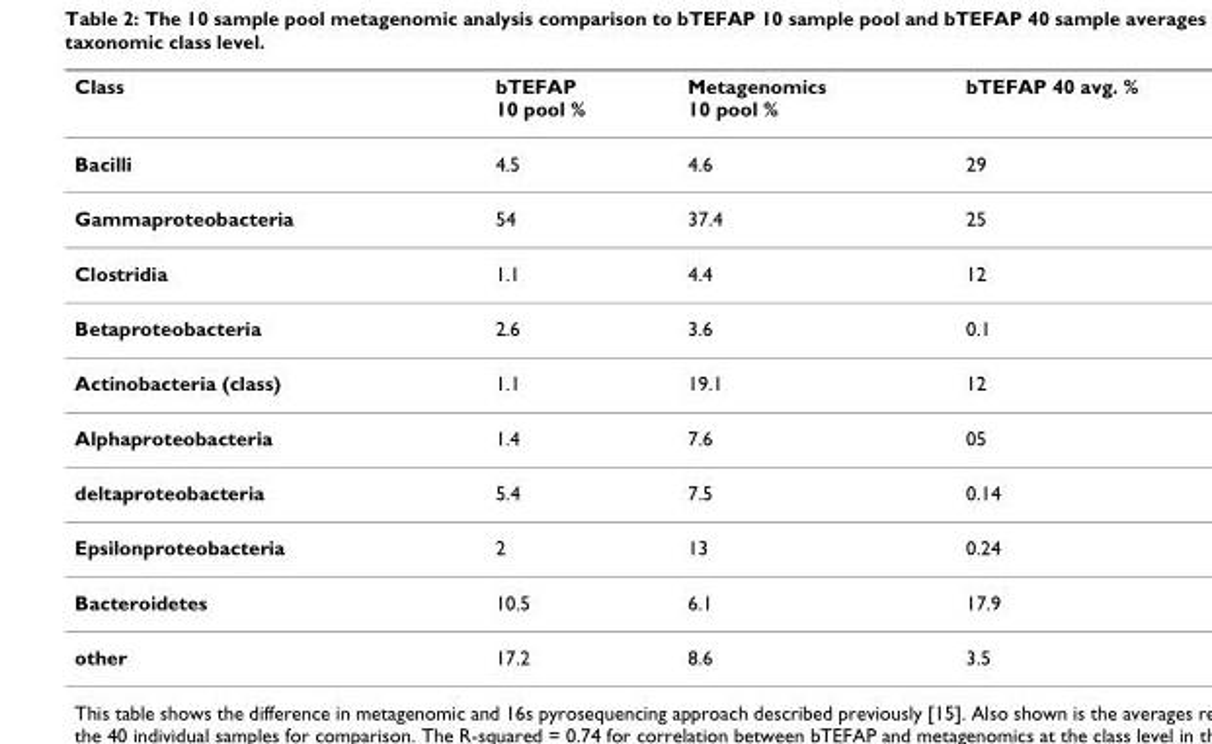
<table><thead><tr><td>Class</td><td>bTEFAP 10 pool %</td><td>Metagenomics 10 pool %</td><td>bTEFAP 40 avg. %</td></tr></thead><tbody><tr><td>Bacilli</td><td>4.5</td><td>4.6</td><td>29</td></tr><tr><td>Gammaproteobacteria</td><td>54</td><td>37.4</td><td>25</td></tr><tr><td>Clostridia</td><td>1.1</td><td>4.4</td><td>12</td></tr><tr><td>Betaproteobacteria</td><td>2.6</td><td>3.6</td><td>0.1</td></tr><tr><td>Actinobacteria (class)</td><td>1.1</td><td>19.1</td><td>12</td></tr><tr><td>Alphaproteobacteria</td><td>1.4</td><td>7.6</td><td>05</td></tr><tr><td>deltaproteobacteria</td><td>5.4</td><td>7.5</td><td>0.14</td></tr><tr><td>Epsilonproteobacteria</td><td>2</td><td>13</td><td>0.24</td></tr><tr><td>Bacteroidetes</td><td>10.5</td><td>6.1</td><td>17.9</td></tr><tr><td>other</td><td>17.2</td><td>8.6</td><td>3.5</td></tr></tbody></table>